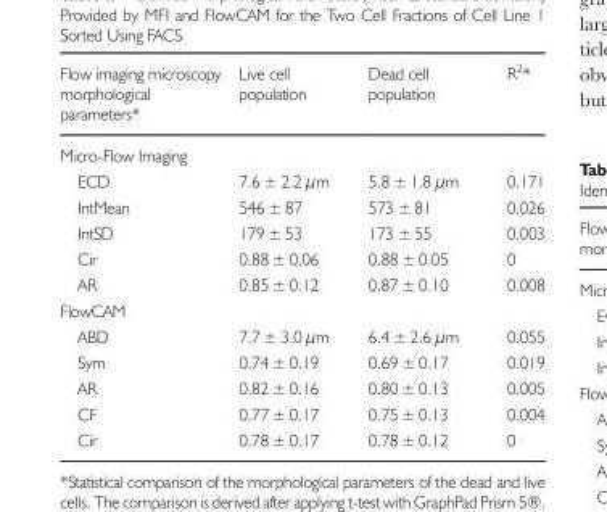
<table><thead><tr><td>Flow imaging microscopy morphological parameters*</td><td>Live cell population</td><td>Dead cell population</td><td>R<sup>2</sup>*</td></tr></thead><tbody><tr><td colspan="4">Micro-Flow Imaging</td></tr><tr><td>ECD</td><td>7.6 ± 2.2 μm</td><td>5.8 ± 1.8 μm</td><td>0.171</td></tr><tr><td>IntMean</td><td>546 ± 87</td><td>573 ± 81</td><td>0.026</td></tr><tr><td>IntSD</td><td>179 ± 53</td><td>173 ± 55</td><td>0.003</td></tr><tr><td>Cir</td><td>0.88 ± 0.06</td><td>0.88 ± 0.05</td><td>0</td></tr><tr><td>AR</td><td>0.85 ± 0.12</td><td>0.87 ± 0.10</td><td>0.008</td></tr><tr><td colspan="4">FlowCAM</td></tr><tr><td>ABD</td><td>7.7 ± 3.0 μm</td><td>6.4 ± 2.6 μm</td><td>0.055</td></tr><tr><td>Sym</td><td>0.74 ± 0.19</td><td>0.69 ± 0.17</td><td>0.019</td></tr><tr><td>AR</td><td>0.82 ± 0.16</td><td>0.80 ± 0.13</td><td>0.005</td></tr><tr><td>CF</td><td>0.77 ± 0.17</td><td>0.75 ± 0.13</td><td>0.004</td></tr><tr><td>Cir</td><td>0.78 ± 0.17</td><td>0.78 ± 0.12</td><td>0</td></tr></tbody></table>